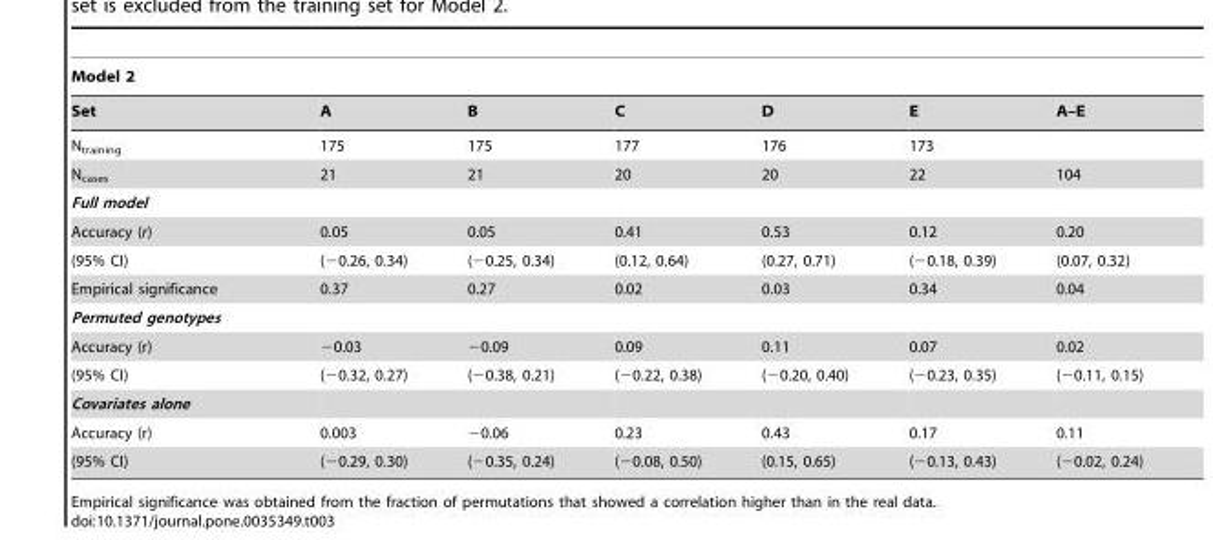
<table><thead><tr><td colspan="7">Model 2</td></tr><tr><td>Set</td><td>A</td><td>B</td><td>C</td><td>D</td><td>E</td><td>A–E</td></tr></thead><tbody><tr><td>N<sub>training</sub></td><td>175</td><td>175</td><td>177</td><td>176</td><td>173</td><td></td></tr><tr><td>N<sub>cases</sub></td><td>21</td><td>21</td><td>20</td><td>20</td><td>22</td><td>104</td></tr><tr><td colspan="7">Full model</td></tr><tr><td>Accuracy (r)</td><td>0.05</td><td>0.05</td><td>0.41</td><td>0.53</td><td>0.12</td><td>0.20</td></tr><tr><td>(95% CI)</td><td>(−0.26, 0.34)</td><td>(−0.25, 0.34)</td><td>(0.12, 0.64)</td><td>(0.27, 0.71)</td><td>(−0.18, 0.39)</td><td>(0.07, 0.32)</td></tr><tr><td>Empirical significance</td><td>0.37</td><td>0.27</td><td>0.02</td><td>0.03</td><td>0.34</td><td>0.04</td></tr><tr><td colspan="7">Permuted genotypes</td></tr><tr><td>Accuracy (r)</td><td>−0.03</td><td>−0.09</td><td>0.09</td><td>0.11</td><td>0.07</td><td>0.02</td></tr><tr><td>(95% CI)</td><td>(−0.32, 0.27)</td><td>(−0.38, 0.21)</td><td>(−0.22, 0.38)</td><td>(−0.20, 0.40)</td><td>(−0.23, 0.35)</td><td>(−0.11, 0.15)</td></tr><tr><td colspan="7">Covariates alone</td></tr><tr><td>Accuracy (r)</td><td>0.003</td><td>−0.06</td><td>0.23</td><td>0.43</td><td>0.17</td><td>0.11</td></tr><tr><td>(95% CI)</td><td>(−0.29, 0.30)</td><td>(−0.35, 0.24)</td><td>(−0.08, 0.50)</td><td>(0.15, 0.65)</td><td>(−0.13, 0.43)</td><td>(−0.02, 0.24)</td></tr></tbody></table>